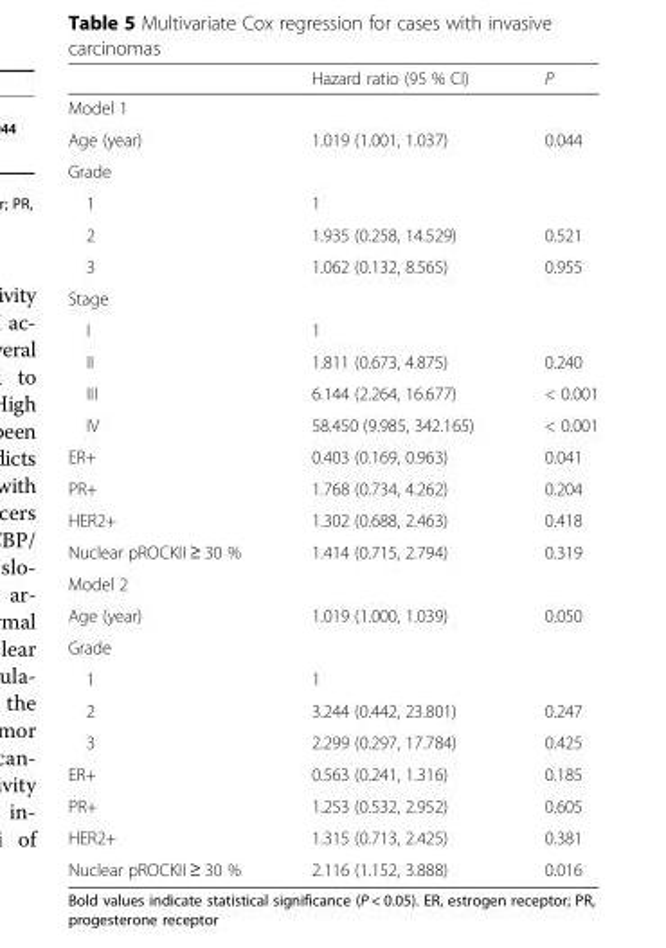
<table><thead><tr><td></td><td>Hazard ratio (95 % CI)</td><td>P</td></tr></thead><tbody><tr><td colspan="3">Model 1</td></tr><tr><td>Age (year)</td><td>1.019 (1.001, 1.037)</td><td>0.044</td></tr><tr><td colspan="3">Grade</td></tr><tr><td>1</td><td>1</td><td></td></tr><tr><td>2</td><td>1.935 (0.258, 14.529)</td><td>0.521</td></tr><tr><td>3</td><td>1.062 (0.132, 8.565)</td><td>0.955</td></tr><tr><td colspan="3">Stage</td></tr><tr><td>I</td><td>1</td><td></td></tr><tr><td>II</td><td>1.811 (0.673, 4.875)</td><td>0.240</td></tr><tr><td>III</td><td>6.144 (2.264, 16.677)</td><td>&lt; 0.001</td></tr><tr><td>IV</td><td>58.450 (9.985, 342.165)</td><td>&lt; 0.001</td></tr><tr><td>ER+</td><td>0.403 (0.169, 0.963)</td><td>0.041</td></tr><tr><td>PR+</td><td>1.768 (0.734, 4.262)</td><td>0.204</td></tr><tr><td>HER2+</td><td>1.302 (0.688, 2.463)</td><td>0.418</td></tr><tr><td>Nuclear pROCKII ≥ 30 %</td><td>1.414 (0.715, 2.794)</td><td>0.319</td></tr><tr><td colspan="3">Model 2</td></tr><tr><td>Age (year)</td><td>1.019 (1.000, 1.039)</td><td>0.050</td></tr><tr><td colspan="3">Grade</td></tr><tr><td>1</td><td>1</td><td></td></tr><tr><td>2</td><td>3.244 (0.442, 23.801)</td><td>0.247</td></tr><tr><td>3</td><td>2.299 (0.297, 17.784)</td><td>0.425</td></tr><tr><td>ER+</td><td>0.563 (0.241, 1.316)</td><td>0.185</td></tr><tr><td>PR+</td><td>1.253 (0.532, 2.952)</td><td>0.605</td></tr><tr><td>HER2+</td><td>1.315 (0.713, 2.425)</td><td>0.381</td></tr><tr><td>Nuclear pROCKII ≥ 30 %</td><td>2.116 (1.152, 3.888)</td><td>0.016</td></tr></tbody></table>